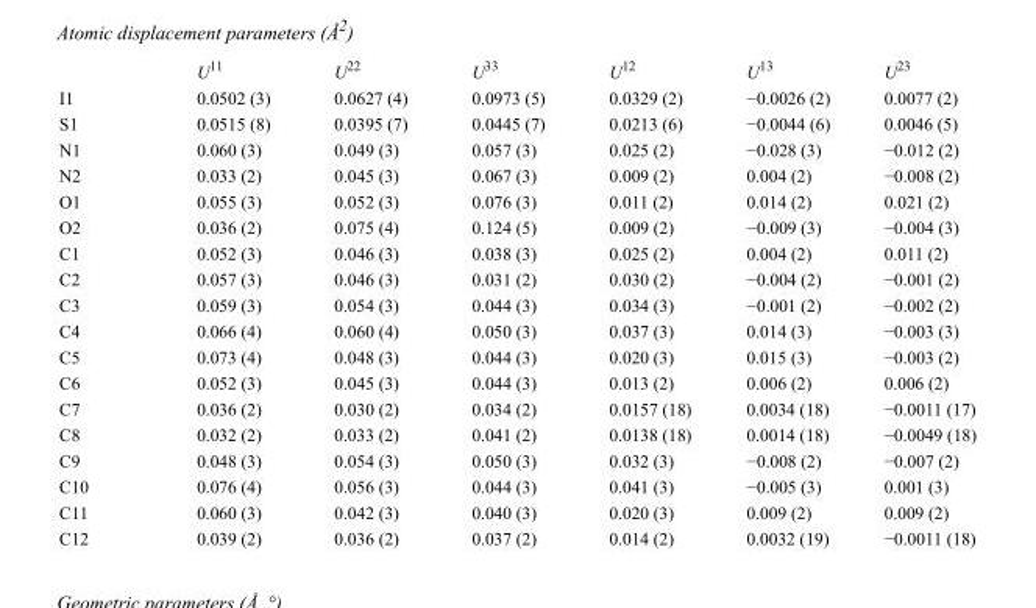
<table><thead><tr><td></td><td>U<sup>11</sup></td><td>U<sup>22</sup></td><td>U<sup>33</sup></td><td>U<sup>12</sup></td><td>U<sup>13</sup></td><td>U<sup>23</sup></td></tr></thead><tbody><tr><td>I1</td><td>0.0502 (3)</td><td>0.0627 (4)</td><td>0.0973 (5)</td><td>0.0329 (2)</td><td>−0.0026 (2)</td><td>0.0077 (2)</td></tr><tr><td>S1</td><td>0.0515 (8)</td><td>0.0395 (7)</td><td>0.0445 (7)</td><td>0.0213 (6)</td><td>−0.0044 (6)</td><td>0.0046 (5)</td></tr><tr><td>N1</td><td>0.060 (3)</td><td>0.049 (3)</td><td>0.057 (3)</td><td>0.025 (2)</td><td>−0.028 (3)</td><td>−0.012 (2)</td></tr><tr><td>N2</td><td>0.033 (2)</td><td>0.045 (3)</td><td>0.067 (3)</td><td>0.009 (2)</td><td>0.004 (2)</td><td>−0.008 (2)</td></tr><tr><td>O1</td><td>0.055 (3)</td><td>0.052 (3)</td><td>0.076 (3)</td><td>0.011 (2)</td><td>0.014 (2)</td><td>0.021 (2)</td></tr><tr><td>O2</td><td>0.036 (2)</td><td>0.075 (4)</td><td>0.124 (5)</td><td>0.009 (2)</td><td>−0.009 (3)</td><td>−0.004 (3)</td></tr><tr><td>C1</td><td>0.052 (3)</td><td>0.046 (3)</td><td>0.038 (3)</td><td>0.025 (2)</td><td>0.004 (2)</td><td>0.011 (2)</td></tr><tr><td>C2</td><td>0.057 (3)</td><td>0.046 (3)</td><td>0.031 (2)</td><td>0.030 (2)</td><td>−0.004 (2)</td><td>−0.001 (2)</td></tr><tr><td>C3</td><td>0.059 (3)</td><td>0.054 (3)</td><td>0.044 (3)</td><td>0.034 (3)</td><td>−0.001 (2)</td><td>−0.002 (2)</td></tr><tr><td>C4</td><td>0.066 (4)</td><td>0.060 (4)</td><td>0.050 (3)</td><td>0.037 (3)</td><td>0.014 (3)</td><td>−0.003 (3)</td></tr><tr><td>C5</td><td>0.073 (4)</td><td>0.048 (3)</td><td>0.044 (3)</td><td>0.020 (3)</td><td>0.015 (3)</td><td>−0.003 (2)</td></tr><tr><td>C6</td><td>0.052 (3)</td><td>0.045 (3)</td><td>0.044 (3)</td><td>0.013 (2)</td><td>0.006 (2)</td><td>0.006 (2)</td></tr><tr><td>C7</td><td>0.036 (2)</td><td>0.030 (2)</td><td>0.034 (2)</td><td>0.0157 (18)</td><td>0.0034 (18)</td><td>−0.0011 (17)</td></tr><tr><td>C8</td><td>0.032 (2)</td><td>0.033 (2)</td><td>0.041 (2)</td><td>0.0138 (18)</td><td>0.0014 (18)</td><td>−0.0049 (18)</td></tr><tr><td>C9</td><td>0.048 (3)</td><td>0.054 (3)</td><td>0.050 (3)</td><td>0.032 (3)</td><td>−0.008 (2)</td><td>−0.007 (2)</td></tr><tr><td>C10</td><td>0.076 (4)</td><td>0.056 (3)</td><td>0.044 (3)</td><td>0.041 (3)</td><td>−0.005 (3)</td><td>0.001 (3)</td></tr><tr><td>C11</td><td>0.060 (3)</td><td>0.042 (3)</td><td>0.040 (3)</td><td>0.020 (3)</td><td>0.009 (2)</td><td>0.009 (2)</td></tr><tr><td>C12</td><td>0.039 (2)</td><td>0.036 (2)</td><td>0.037 (2)</td><td>0.014 (2)</td><td>0.0032 (19)</td><td>−0.0011 (18)</td></tr></tbody></table>